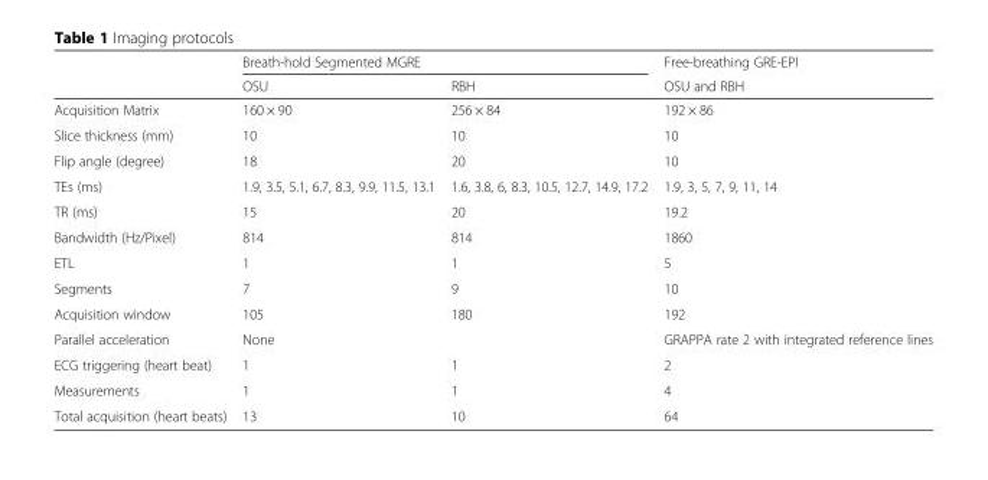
<table><thead><tr><td rowspan="2"></td><td colspan="2">Breath-hold Segmented MGRE</td><td rowspan="2">Free-breathing GRE-EPI OSU and RBH</td></tr><tr><td>OSU</td><td>RBH</td></tr></thead><tbody><tr><td>Acquisition Matrix</td><td>160 × 90</td><td>256 × 84</td><td>192 × 86</td></tr><tr><td>Slice thickness (mm)</td><td>10</td><td>10</td><td>10</td></tr><tr><td>Flip angle (degree)</td><td>18</td><td>20</td><td>10</td></tr><tr><td>TEs (ms)</td><td>1.9, 3.5, 5.1, 6.7, 8.3, 9.9, 11.5, 13.1</td><td>1.6, 3.8, 6, 8.3, 10.5, 12.7, 14.9, 17.2</td><td>1.9, 3, 5, 7, 9, 11, 14</td></tr><tr><td>TR (ms)</td><td>15</td><td>20</td><td>19.2</td></tr><tr><td>Bandwidth (Hz/Pixel)</td><td>814</td><td>814</td><td>1860</td></tr><tr><td>ETL</td><td>1</td><td>1</td><td>5</td></tr><tr><td>Segments</td><td>7</td><td>9</td><td>10</td></tr><tr><td>Acquisition window</td><td>105</td><td>180</td><td>192</td></tr><tr><td>Parallel acceleration</td><td colspan="2">None</td><td>GRAPPA rate 2 with integrated reference lines</td></tr><tr><td>ECG triggering (heart beat)</td><td>1</td><td>1</td><td>2</td></tr><tr><td>Measurements</td><td>1</td><td>1</td><td>4</td></tr><tr><td>Total acquisition (heart beats)</td><td>13</td><td>10</td><td>64</td></tr></tbody></table>